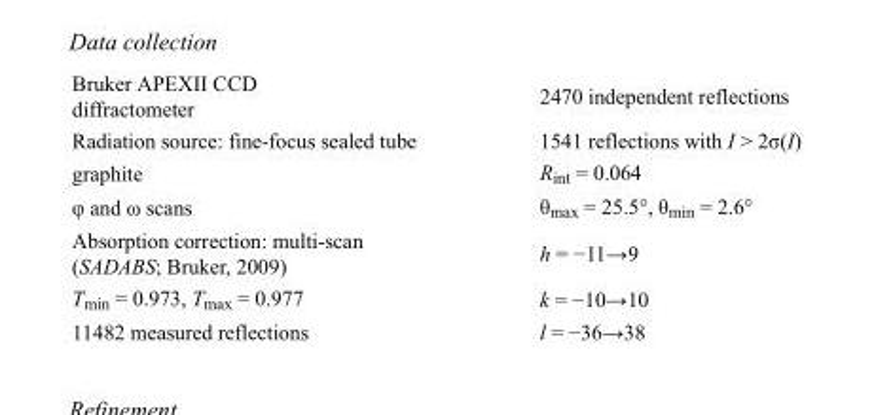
<table><tbody><tr><td>Bruker APEXII CCD diffractometer</td><td>2470 independent reflections</td></tr><tr><td>Radiation source: fine-focus sealed tube</td><td>1541 reflections with I &gt; 2σ(I)</td></tr><tr><td>graphite</td><td>R<sub>int</sub> = 0.064</td></tr><tr><td>φ and ω scans</td><td>θ<sub>max</sub> = 25.5°, θ<sub>min</sub> = 2.6°</td></tr><tr><td>Absorption correction: multi-scan (SADABS; Bruker, 2009)</td><td>h = −11→9</td></tr><tr><td>T<sub>min</sub> = 0.973, T<sub>max</sub> = 0.977</td><td>k = −10→10</td></tr><tr><td>11482 measured reflections</td><td>l = −36→38</td></tr></tbody></table>